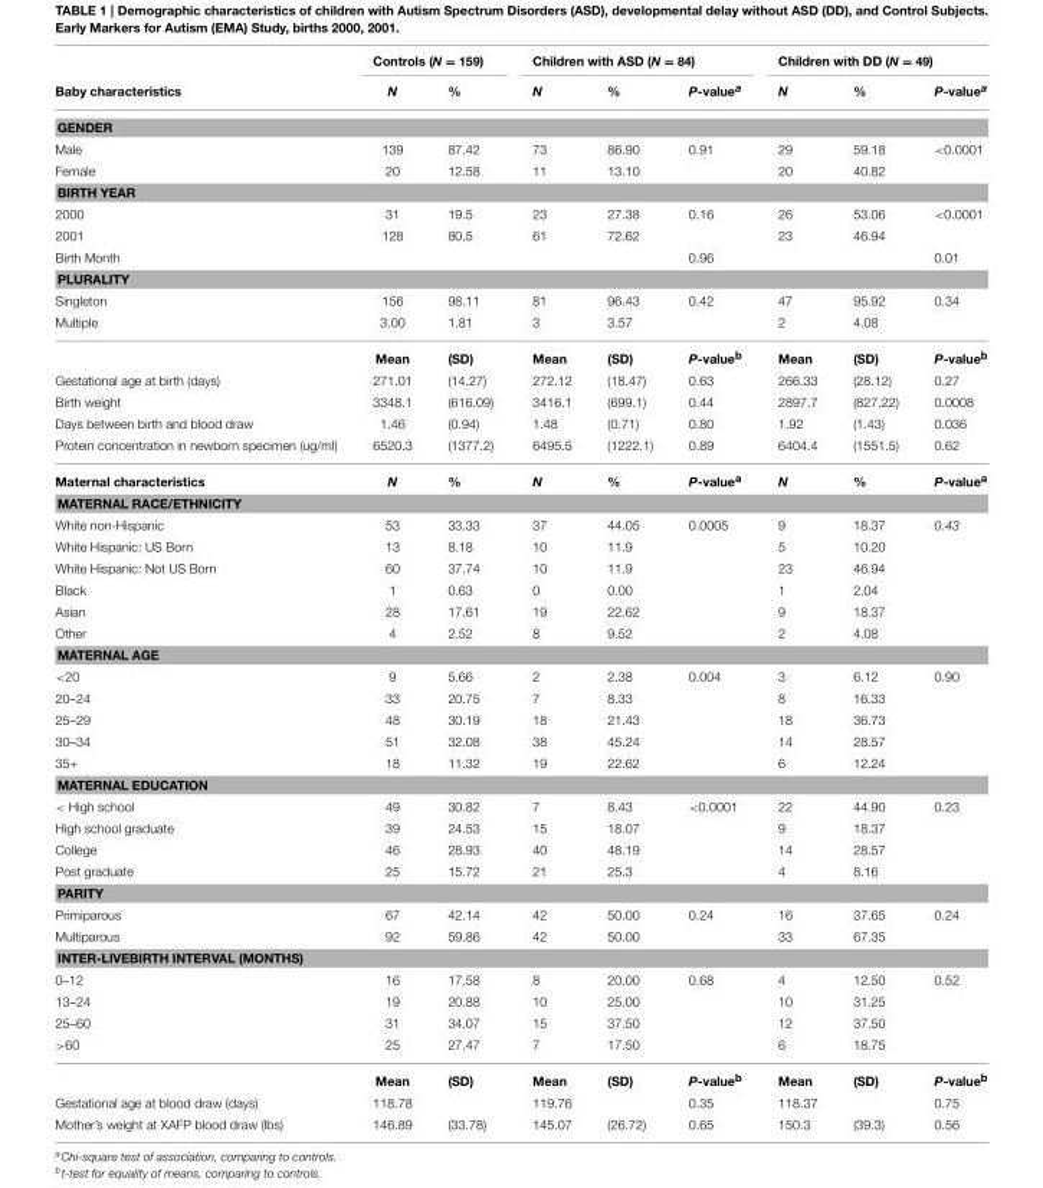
<table><thead><tr><td rowspan="2">Baby characteristics</td><td colspan="2">Controls (N = 159)</td><td colspan="3">Children with ASD (N = 84)</td><td colspan="3">Children with DD (N = 49)</td></tr><tr><td>N</td><td>%</td><td>N</td><td>%</td><td>P-value<sup>a</sup></td><td>N</td><td>%</td><td>P-value<sup>a</sup></td></tr></thead><tbody><tr><td colspan="9">GENDER</td></tr><tr><td>Male</td><td>139</td><td>87.42</td><td>73</td><td>86.90</td><td>0.91</td><td>29</td><td>59.18</td><td>&lt;0.0001</td></tr><tr><td>Female</td><td>20</td><td>12.58</td><td>11</td><td>13.10</td><td></td><td>20</td><td>40.82</td><td></td></tr><tr><td colspan="9">BIRTH YEAR</td></tr><tr><td>2000</td><td>31</td><td>19.5</td><td>23</td><td>27.38</td><td>0.16</td><td>26</td><td>53.06</td><td>&lt;0.0001</td></tr><tr><td>2001</td><td>128</td><td>80.5</td><td>61</td><td>72.62</td><td></td><td>23</td><td>46.94</td><td></td></tr><tr><td>Birth Month</td><td></td><td></td><td></td><td></td><td>0.96</td><td></td><td></td><td>0.01</td></tr><tr><td colspan="9">PLURALITY</td></tr><tr><td>Singleton</td><td>156</td><td>98.11</td><td>81</td><td>96.43</td><td>0.42</td><td>47</td><td>95.92</td><td>0.34</td></tr><tr><td rowspan="2">Multiple</td><td>3.00</td><td>1.81</td><td>3</td><td>3.57</td><td></td><td>2</td><td>4.08</td><td></td></tr><tr><td>Mean</td><td>(SD)</td><td>Mean</td><td>(SD)</td><td>P-value<sup>b</sup></td><td>Mean</td><td>(SD)</td><td>P-value<sup>b</sup></td></tr><tr><td>Gestational age at birth (days)</td><td>271.01</td><td>(14.27)</td><td>272.12</td><td>(18.47)</td><td>0.63</td><td>266.33</td><td>(28.12)</td><td>0.27</td></tr><tr><td>Birth weight</td><td>3348.1</td><td>(616.09)</td><td>3416.1</td><td>(699.1)</td><td>0.44</td><td>2897.7</td><td>(827.22)</td><td>0.0008</td></tr><tr><td>Days between birth and blood draw</td><td>1.46</td><td>(0.94)</td><td>1.48</td><td>(0.71)</td><td>0.80</td><td>1.92</td><td>(1.43)</td><td>0.036</td></tr><tr><td>Protein concentration in newborn specimen (ug/ml)</td><td>6520.3</td><td>(1377.2)</td><td>6495.5</td><td>(1222.1)</td><td>0.89</td><td>6404.4</td><td>(1551.5)</td><td>0.62</td></tr><tr><td>Maternal characteristics</td><td>N</td><td>%</td><td>N</td><td>%</td><td>P-value<sup>a</sup></td><td>N</td><td>%</td><td>P-value<sup>a</sup></td></tr><tr><td colspan="9">MATERNAL RACE/ETHNICITY</td></tr><tr><td>White non-Hispanic</td><td>53</td><td>33.33</td><td>37</td><td>44.05</td><td>0.0005</td><td>9</td><td>18.37</td><td>0.43</td></tr><tr><td>White Hispanic: US Born</td><td>13</td><td>8.18</td><td>10</td><td>11.9</td><td></td><td>5</td><td>10.20</td><td></td></tr><tr><td>White Hispanic: Not US Born</td><td>60</td><td>37.74</td><td>10</td><td>11.9</td><td></td><td>23</td><td>46.94</td><td></td></tr><tr><td>Black</td><td>1</td><td>0.63</td><td>0</td><td>0.00</td><td></td><td>1</td><td>2.04</td><td></td></tr><tr><td>Asian</td><td>28</td><td>17.61</td><td>19</td><td>22.62</td><td></td><td>9</td><td>18.37</td><td></td></tr><tr><td>Other</td><td>4</td><td>2.52</td><td>8</td><td>9.52</td><td></td><td>2</td><td>4.08</td><td></td></tr><tr><td colspan="9">MATERNAL AGE</td></tr><tr><td>&lt;20</td><td>9</td><td>5.66</td><td>2</td><td>2.38</td><td>0.004</td><td>3</td><td>6.12</td><td>0.90</td></tr><tr><td>20–24</td><td>33</td><td>20.75</td><td>7</td><td>8.33</td><td></td><td>8</td><td>16.33</td><td></td></tr><tr><td>25–29</td><td>48</td><td>30.19</td><td>18</td><td>21.43</td><td></td><td>18</td><td>36.73</td><td></td></tr><tr><td>30–34</td><td>51</td><td>32.08</td><td>38</td><td>45.24</td><td></td><td>14</td><td>28.57</td><td></td></tr><tr><td>35+</td><td>18</td><td>11.32</td><td>19</td><td>22.62</td><td></td><td>6</td><td>12.24</td><td></td></tr><tr><td colspan="9">MATERNAL EDUCATION</td></tr><tr><td>&lt; High school</td><td>49</td><td>30.82</td><td>7</td><td>8.43</td><td>&lt;0.0001</td><td>22</td><td>44.90</td><td>0.23</td></tr><tr><td>High school graduate</td><td>39</td><td>24.53</td><td>15</td><td>18.07</td><td></td><td>9</td><td>18.37</td><td></td></tr><tr><td>College</td><td>46</td><td>28.93</td><td>40</td><td>48.19</td><td></td><td>14</td><td>28.57</td><td></td></tr><tr><td>Post graduate</td><td>25</td><td>15.72</td><td>21</td><td>25.3</td><td></td><td>4</td><td>8.16</td><td></td></tr><tr><td colspan="9">PARITY</td></tr><tr><td>Primiparous</td><td>67</td><td>42.14</td><td>42</td><td>50.00</td><td>0.24</td><td>16</td><td>37.65</td><td>0.24</td></tr><tr><td>Multiparous</td><td>92</td><td>59.86</td><td>42</td><td>50.00</td><td></td><td>33</td><td>67.35</td><td></td></tr><tr><td colspan="9">INTER-LIVEBIRTH INTERVAL (MONTHS)</td></tr><tr><td>0–12</td><td>16</td><td>17.58</td><td>8</td><td>20.00</td><td>0.68</td><td>4</td><td>12.50</td><td>0.52</td></tr><tr><td>13–24</td><td>19</td><td>20.88</td><td>10</td><td>25.00</td><td></td><td>10</td><td>31.25</td><td></td></tr><tr><td>25–60</td><td>31</td><td>34.07</td><td>15</td><td>37.50</td><td></td><td>12</td><td>37.50</td><td></td></tr><tr><td rowspan="2">&gt;60</td><td>25</td><td>27.47</td><td>7</td><td>17.50</td><td></td><td>6</td><td>18.75</td><td></td></tr><tr><td>Mean</td><td>(SD)</td><td>Mean</td><td>(SD)</td><td>P-value<sup>b</sup></td><td>Mean</td><td>(SD)</td><td>P-value<sup>b</sup></td></tr><tr><td>Gestational age at blood draw (days)</td><td>118.78</td><td></td><td>119.76</td><td></td><td>0.35</td><td>118.37</td><td></td><td>0.75</td></tr><tr><td>Mother’s weight at XAFP blood draw (lbs)</td><td>146.89</td><td>(33.78)</td><td>145.07</td><td>(26.72)</td><td>0.65</td><td>150.3</td><td>(39.3)</td><td>0.56</td></tr></tbody></table>